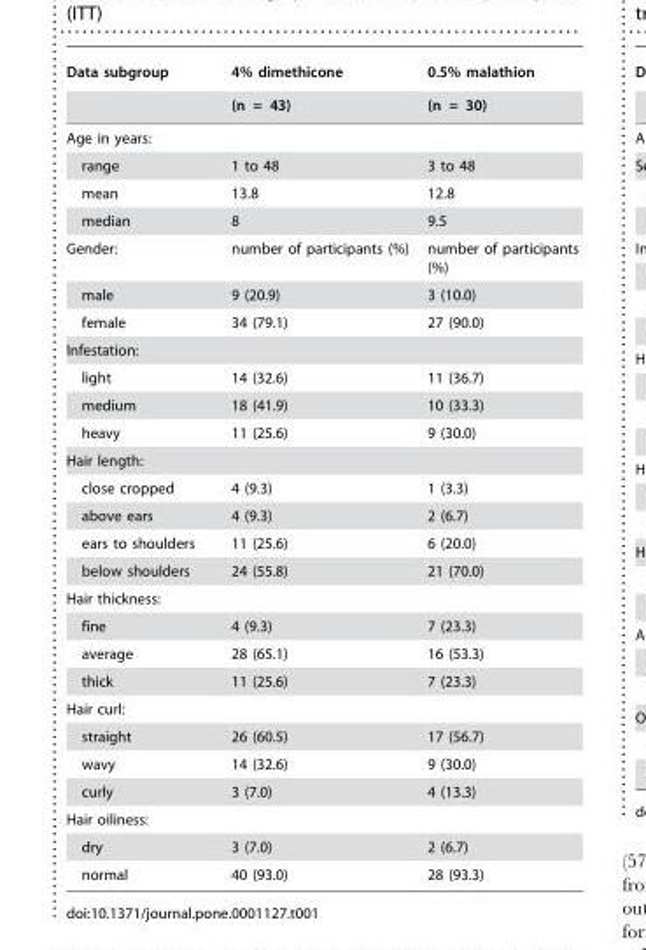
<table><thead><tr><td rowspan="2">Data subgroup</td><td rowspan="2">4% dimethicone (n = 43)</td><td rowspan="2">0.5% malathion (n = 30)</td></tr><tr></tr></thead><tbody><tr><td colspan="3">Age in years:</td></tr><tr><td>range</td><td>1 to 48</td><td>3 to 48</td></tr><tr><td>mean</td><td>13.8</td><td>12.8</td></tr><tr><td>median</td><td>8</td><td>9.5</td></tr><tr><td>Gender:</td><td>number of participants (%)</td><td>number of participants (%)</td></tr><tr><td>male</td><td>9 (20.9)</td><td>3 (10.0)</td></tr><tr><td>female</td><td>34 (79.1)</td><td>27 (90.0)</td></tr><tr><td colspan="3">Infestation:</td></tr><tr><td>light</td><td>14 (32.6)</td><td>11 (36.7)</td></tr><tr><td>medium</td><td>18 (41.9)</td><td>10 (33.3)</td></tr><tr><td>heavy</td><td>11 (25.6)</td><td>9 (30.0)</td></tr><tr><td colspan="3">Hair length:</td></tr><tr><td>close cropped</td><td>4 (9.3)</td><td>1 (3.3)</td></tr><tr><td>above ears</td><td>4 (9.3)</td><td>2 (6.7)</td></tr><tr><td>ears to shoulders</td><td>11 (25.6)</td><td>6 (20.0)</td></tr><tr><td>below shoulders</td><td>24 (55.8)</td><td>21 (70.0)</td></tr><tr><td colspan="3">Hair thickness:</td></tr><tr><td>fine</td><td>4 (9.3)</td><td>7 (23.3)</td></tr><tr><td>average</td><td>28 (65.1)</td><td>16 (53.3)</td></tr><tr><td>thick</td><td>11 (25.6)</td><td>7 (23.3)</td></tr><tr><td colspan="3">Hair curl:</td></tr><tr><td>straight</td><td>26 (60.5)</td><td>17 (56.7)</td></tr><tr><td>wavy</td><td>14 (32.6)</td><td>9 (30.0)</td></tr><tr><td>curly</td><td>3 (7.0)</td><td>4 (13.3)</td></tr><tr><td colspan="3">Hair oiliness:</td></tr><tr><td>dry</td><td>3 (7.0)</td><td>2 (6.7)</td></tr><tr><td>normal</td><td>40 (93.0)</td><td>28 (93.3)</td></tr></tbody></table>